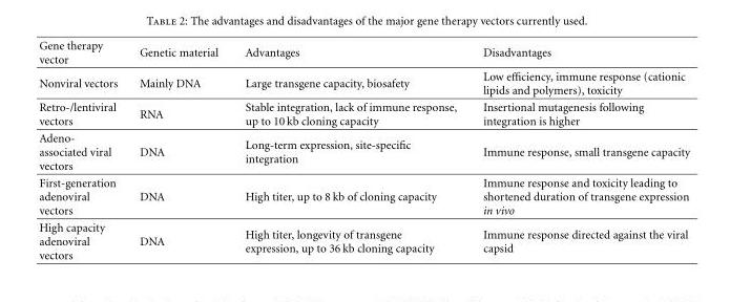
<table><thead><tr><td>Gene therapy vector</td><td>Genetic material</td><td>Advantages</td><td>Disadvantages</td></tr></thead><tbody><tr><td>Nonviral vectors</td><td>Mainly DNA</td><td>Large transgene capacity, biosafety</td><td>Low efficiency, immune response (cationic lipids and polymers), toxicity</td></tr><tr><td>Retro-/lentiviral vectors</td><td>RNA</td><td>Stable integration, lack of immune response, up to 10 kb cloning capacity</td><td>Insertional mutagenesis following integration is higher</td></tr><tr><td>Adeno- associated viral vectors</td><td>DNA</td><td>Long-term expression, site-specific integration</td><td>Immune response, small transgene capacity</td></tr><tr><td>First-generation adenoviral vectors</td><td>DNA</td><td>High titer, up to 8 kb of cloning capacity</td><td>Immune response and toxicity leading to shortened duration of transgene expression in vivo</td></tr><tr><td>High capacity adenoviral vectors</td><td>DNA</td><td>High titer, longevity of transgene expression, up to 36 kb cloning capacity</td><td>Immune response directed against the viral capsid</td></tr></tbody></table>